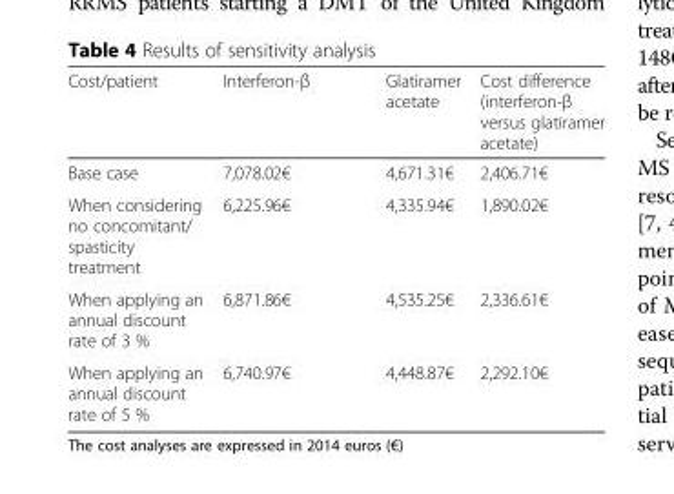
<table><thead><tr><td>Cost/patient</td><td>Interferon-β</td><td>Glatiramer acetate</td><td>Cost difference (interferon-β versus glatiramer acetate)</td></tr></thead><tbody><tr><td>Base case</td><td>7,078.02€</td><td>4,671.31€</td><td>2,406.71€</td></tr><tr><td>When considering no concomitant/ spasticity treatment</td><td>6,225.96€</td><td>4,335.94€</td><td>1,890.02€</td></tr><tr><td>When applying an annual discount rate of 3 %</td><td>6,871.86€</td><td>4,535.25€</td><td>2,336.61€</td></tr><tr><td>When applying an annual discount rate of 5 %</td><td>6,740.97€</td><td>4,448.87€</td><td>2,292.10€</td></tr></tbody></table>